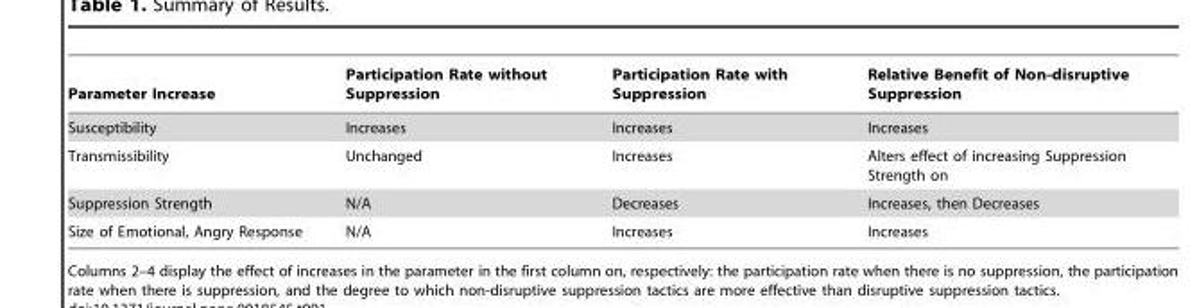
<table><thead><tr><td>Parameter Increase</td><td>Participation Rate without Suppression</td><td>Participation Rate with Suppression</td><td>Relative Benefit of Non-disruptive Suppression</td></tr></thead><tbody><tr><td>Susceptibility</td><td>Increases</td><td>Increases</td><td>Increases</td></tr><tr><td>Transmissibility</td><td>Unchanged</td><td>Increases</td><td>Alters effect of increasing Suppression Strength on</td></tr><tr><td>Suppression Strength</td><td>N/A</td><td>Decreases</td><td>Increases, then Decreases</td></tr><tr><td>Size of Emotional, Angry Response</td><td>N/A</td><td>Increases</td><td>Increases</td></tr></tbody></table>